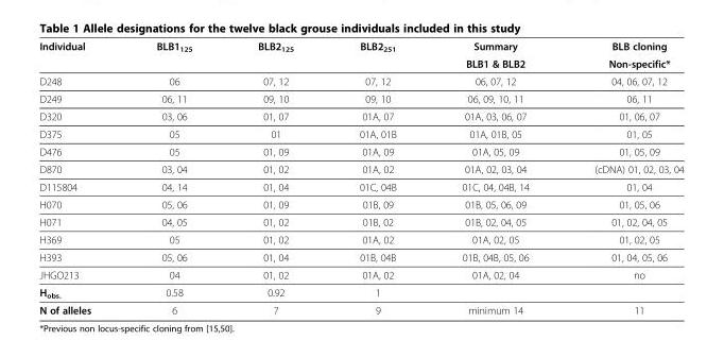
<table><thead><tr><td rowspan="2">Individual</td><td rowspan="2">BLB1<sub>125</sub></td><td rowspan="2">BLB2<sub>125</sub></td><td rowspan="2">BLB2<sub>251</sub></td><td rowspan="2">Summary BLB1 &amp; BLB2</td><td rowspan="2">BLB cloning Non-specific*</td></tr><tr></tr></thead><tbody><tr><td>D248</td><td>06</td><td>07, 12</td><td>07, 12</td><td>06, 07, 12</td><td>04, 06, 07, 12</td></tr><tr><td>D249</td><td>06, 11</td><td>09, 10</td><td>09, 10</td><td>06, 09, 10, 11</td><td>06, 11</td></tr><tr><td>D320</td><td>03, 06</td><td>01, 07</td><td>01A, 07</td><td>01A, 03, 06, 07</td><td>01, 06, 07</td></tr><tr><td>D375</td><td>05</td><td>01</td><td>01A, 01B</td><td>01A, 01B, 05</td><td>01, 05</td></tr><tr><td>D476</td><td>05</td><td>01, 09</td><td>01A, 09</td><td>01A, 05, 09</td><td>01, 05, 09</td></tr><tr><td>D870</td><td>03, 04</td><td>01, 02</td><td>01A, 02</td><td>01A, 02, 03, 04</td><td>(cDNA) 01, 02, 03, 04</td></tr><tr><td>D115804</td><td>04, 14</td><td>01, 04</td><td>01C, 04B</td><td>01C, 04, 04B, 14</td><td>01, 04</td></tr><tr><td>H070</td><td>05, 06</td><td>01, 09</td><td>01B, 09</td><td>01B, 05, 06, 09</td><td>01, 05, 06</td></tr><tr><td>H071</td><td>04, 05</td><td>01, 02</td><td>01B, 02</td><td>01B, 02, 04, 05</td><td>01, 02, 04, 05</td></tr><tr><td>H369</td><td>05</td><td>01, 02</td><td>01A, 02</td><td>01A, 02, 05</td><td>01, 02, 05</td></tr><tr><td>H393</td><td>05, 06</td><td>01, 04</td><td>01B, 04B</td><td>01B, 04B, 05, 06</td><td>01, 04, 05, 06</td></tr><tr><td>JHGO213</td><td>04</td><td>01, 02</td><td>01A, 02</td><td>01A, 02, 04</td><td>no</td></tr><tr><td>H<sub>obs.</sub></td><td>0.58</td><td>0.92</td><td>1</td><td></td><td></td></tr><tr><td>N of alleles</td><td>6</td><td>7</td><td>9</td><td>minimum 14</td><td>11</td></tr></tbody></table>